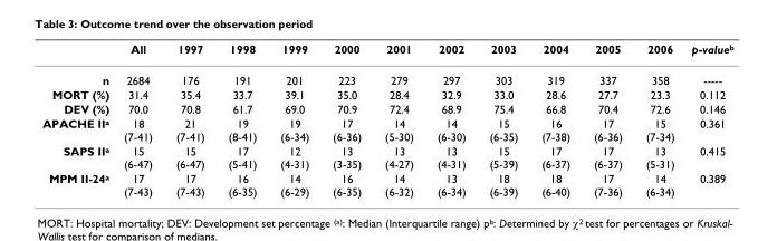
<table><thead><tr><td></td><td>All</td><td>1997</td><td>1998</td><td>1999</td><td>2000</td><td>2001</td><td>2002</td><td>2003</td><td>2004</td><td>2005</td><td>2006</td><td>p-value<sup>b</sup></td></tr></thead><tbody><tr><td>n</td><td>2684</td><td>176</td><td>191</td><td>201</td><td>223</td><td>279</td><td>297</td><td>303</td><td>319</td><td>337</td><td>358</td><td>-----</td></tr><tr><td>MORT (%)</td><td>31.4</td><td>35.4</td><td>33.7</td><td>39.1</td><td>35.0</td><td>28.4</td><td>32.9</td><td>33.0</td><td>28.6</td><td>27.7</td><td>23.3</td><td>0.112</td></tr><tr><td>DEV (%)</td><td>70.0</td><td>70.8</td><td>61.7</td><td>69.0</td><td>70.9</td><td>72.4</td><td>68.9</td><td>75.4</td><td>66.8</td><td>70.4</td><td>72.6</td><td>0.146</td></tr><tr><td>APACHE II<sup>a</sup></td><td>18 (7-41)</td><td>21 (7-41)</td><td>19 (8-41)</td><td>19 (6-34)</td><td>17 (6-36)</td><td>14 (5-30)</td><td>14 (6-30)</td><td>15 (6-35)</td><td>16 (7-38)</td><td>17 (6-36)</td><td>15 (7-34)</td><td>0.361</td></tr><tr><td>SAPS II<sup>a</sup></td><td>15 (6-47)</td><td>15 (6-47)</td><td>17 (5-41)</td><td>12 (4-31)</td><td>13 (3-35)</td><td>13 (4-27)</td><td>13 (4-31)</td><td>15 (5-39)</td><td>17 (6-37)</td><td>17 (6-37)</td><td>13 (5-31)</td><td>0.415</td></tr><tr><td>MPM II-24<sup>a</sup></td><td>17 (7-43)</td><td>17 (7-43)</td><td>16 (6-35)</td><td>14 (6-29)</td><td>16 (6-35)</td><td>14 (6-32)</td><td>13 (6-34)</td><td>18 (6-39)</td><td>18 (6-40)</td><td>17 (7-36)</td><td>14 (6-34)</td><td>0.389</td></tr></tbody></table>